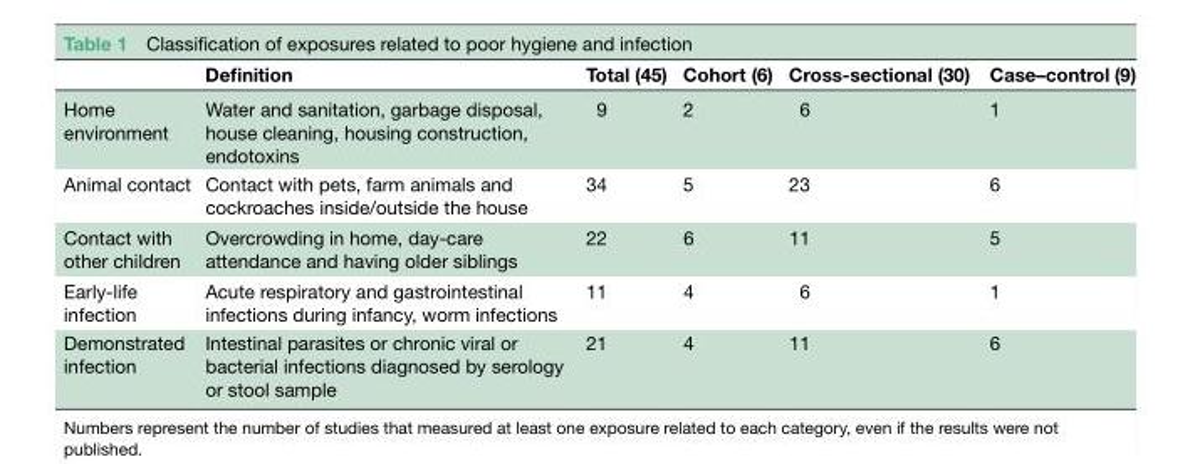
<table><thead><tr><td></td><td>Definition</td><td>Total (45)</td><td>Cohort (6)</td><td>Cross-sectional (30)</td><td>Case–control (9)</td></tr></thead><tbody><tr><td>Home environment</td><td>Water and sanitation, garbage disposal, house cleaning, housing construction, endotoxins</td><td>9</td><td>2</td><td>6</td><td>1</td></tr><tr><td>Animal contact</td><td>Contact with pets, farm animals and cockroaches inside/outside the house</td><td>34</td><td>5</td><td>23</td><td>6</td></tr><tr><td>Contact with other children</td><td>Overcrowding in home, day-care attendance and having older siblings</td><td>22</td><td>6</td><td>11</td><td>5</td></tr><tr><td>Early-life infection</td><td>Acute respiratory and gastrointestinal infections during infancy, worm infections</td><td>11</td><td>4</td><td>6</td><td>1</td></tr><tr><td>Demonstrated infection</td><td>Intestinal parasites or chronic viral or bacterial infections diagnosed by serology or stool sample</td><td>21</td><td>4</td><td>11</td><td>6</td></tr></tbody></table>